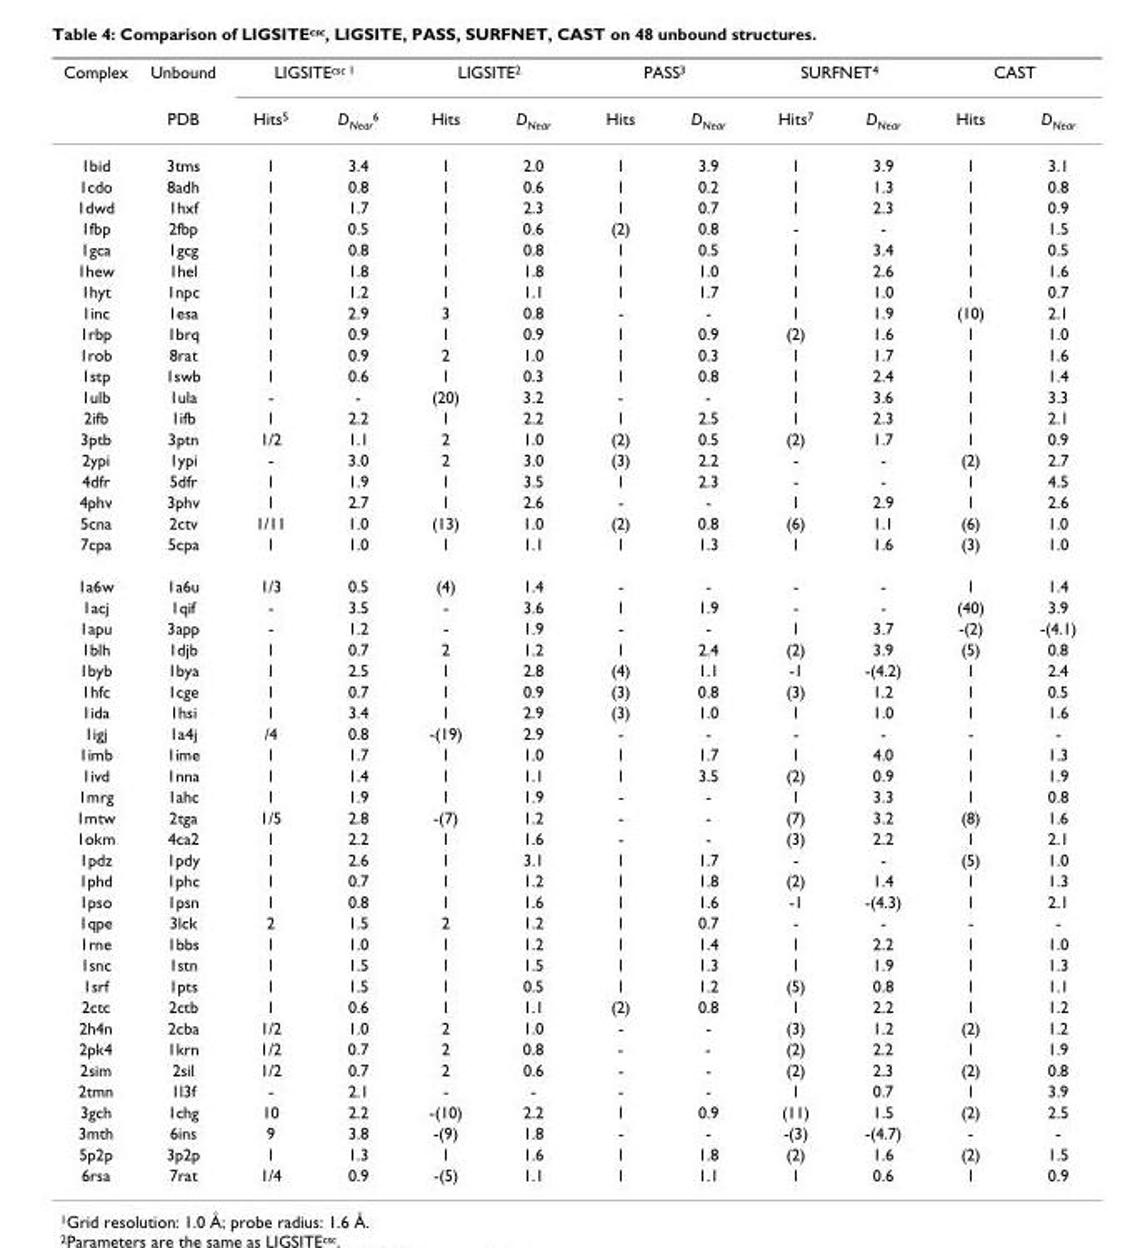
<table><thead><tr><td rowspan="2">Complex</td><td rowspan="2">Unbound PDB</td><td colspan="2">LIGSITEcsc 1</td><td colspan="2">LIGSITE2</td><td colspan="2">PASS3</td><td colspan="2">SURFNET4</td><td colspan="2">CAST</td></tr><tr><td>Hits5</td><td>DNear6</td><td>Hits</td><td>DNear</td><td>Hits</td><td>DNear</td><td>Hits7</td><td>DNear</td><td>Hits</td><td>DNear</td></tr></thead><tbody><tr><td>1bid</td><td>3tms</td><td>1</td><td>3.4</td><td>1</td><td>2.0</td><td>1</td><td>3.9</td><td>1</td><td>3.9</td><td>1</td><td>3.1</td></tr><tr><td>1cdo</td><td>8adh</td><td>1</td><td>0.8</td><td>1</td><td>0.6</td><td>1</td><td>0.2</td><td>1</td><td>1.3</td><td>1</td><td>0.8</td></tr><tr><td>1dwd</td><td>1hxf</td><td>1</td><td>1.7</td><td>1</td><td>2.3</td><td>1</td><td>0.7</td><td>1</td><td>2.3</td><td>1</td><td>0.9</td></tr><tr><td>1fbp</td><td>2fbp</td><td>1</td><td>0.5</td><td>1</td><td>0.6</td><td>(2)</td><td>0.8</td><td>-</td><td>-</td><td>1</td><td>1.5</td></tr><tr><td>1gca</td><td>1gcg</td><td>1</td><td>0.8</td><td>1</td><td>0.8</td><td>1</td><td>0.5</td><td>1</td><td>3.4</td><td>1</td><td>0.5</td></tr><tr><td>1hew</td><td>1hel</td><td>1</td><td>1.8</td><td>1</td><td>1.8</td><td>1</td><td>1.0</td><td>1</td><td>2.6</td><td>1</td><td>1.6</td></tr><tr><td>1hyt</td><td>1npc</td><td>1</td><td>1.2</td><td>1</td><td>1.1</td><td>1</td><td>1.7</td><td>1</td><td>1.0</td><td>1</td><td>0.7</td></tr><tr><td>1inc</td><td>1esa</td><td>1</td><td>2.9</td><td>3</td><td>0.8</td><td>-</td><td>-</td><td>1</td><td>1.9</td><td>(10)</td><td>2.1</td></tr><tr><td>1rbp</td><td>1brq</td><td>1</td><td>0.9</td><td>1</td><td>0.9</td><td>1</td><td>0.9</td><td>(2)</td><td>1.6</td><td>1</td><td>1.0</td></tr><tr><td>1rob</td><td>8rat</td><td>1</td><td>0.9</td><td>2</td><td>1.0</td><td>1</td><td>0.3</td><td>1</td><td>1.7</td><td>1</td><td>1.6</td></tr><tr><td>1stp</td><td>1swb</td><td>1</td><td>0.6</td><td>1</td><td>0.3</td><td>1</td><td>0.8</td><td>1</td><td>2.4</td><td>1</td><td>1.4</td></tr><tr><td>1ulb</td><td>1ula</td><td>-</td><td>-</td><td>(20)</td><td>3.2</td><td>-</td><td>-</td><td>1</td><td>3.6</td><td>1</td><td>3.3</td></tr><tr><td>2ifb</td><td>1ifb</td><td>1</td><td>2.2</td><td>1</td><td>2.2</td><td>1</td><td>2.5</td><td>1</td><td>2.3</td><td>1</td><td>2.1</td></tr><tr><td>3ptb</td><td>3ptn</td><td>1/2</td><td>1.1</td><td>2</td><td>1.0</td><td>(2)</td><td>0.5</td><td>(2)</td><td>1.7</td><td>1</td><td>0.9</td></tr><tr><td>2ypi</td><td>1ypi</td><td>-</td><td>3.0</td><td>2</td><td>3.0</td><td>(3)</td><td>2.2</td><td>-</td><td>-</td><td>(2)</td><td>2.7</td></tr><tr><td>4dfr</td><td>5dfr</td><td>1</td><td>1.9</td><td>1</td><td>3.5</td><td>1</td><td>2.3</td><td>-</td><td>-</td><td>1</td><td>4.5</td></tr><tr><td>4phv</td><td>3phv</td><td>1</td><td>2.7</td><td>1</td><td>2.6</td><td>-</td><td>-</td><td>1</td><td>2.9</td><td>1</td><td>2.6</td></tr><tr><td>5cna</td><td>2ctv</td><td>1/11</td><td>1.0</td><td>(13)</td><td>1.0</td><td>(2)</td><td>0.8</td><td>(6)</td><td>1.1</td><td>(6)</td><td>1.0</td></tr><tr><td>7cpa</td><td>5cpa</td><td>1</td><td>1.0</td><td>1</td><td>1.1</td><td>1</td><td>1.3</td><td>1</td><td>1.6</td><td>(3)</td><td>1.0</td></tr><tr><td>1a6w</td><td>1a6u</td><td>1/3</td><td>0.5</td><td>(4)</td><td>1.4</td><td>-</td><td>-</td><td>-</td><td>-</td><td>1</td><td>1.4</td></tr><tr><td>1acj</td><td>1qif</td><td>-</td><td>3.5</td><td>-</td><td>3.6</td><td>1</td><td>1.9</td><td>-</td><td>-</td><td>(40)</td><td>3.9</td></tr><tr><td>1apu</td><td>3app</td><td>-</td><td>1.2</td><td>-</td><td>1.9</td><td>-</td><td>-</td><td>1</td><td>3.7</td><td>-(2)</td><td>-(4.1)</td></tr><tr><td>1blh</td><td>1djb</td><td>1</td><td>0.7</td><td>2</td><td>1.2</td><td>1</td><td>2.4</td><td>(2)</td><td>3.9</td><td>(5)</td><td>0.8</td></tr><tr><td>1byb</td><td>1bya</td><td>1</td><td>2.5</td><td>1</td><td>2.8</td><td>(4)</td><td>1.1</td><td>-1</td><td>-(4.2)</td><td>1</td><td>2.4</td></tr><tr><td>1hfc</td><td>1cge</td><td>1</td><td>0.7</td><td>1</td><td>0.9</td><td>(3)</td><td>0.8</td><td>(3)</td><td>1.2</td><td>1</td><td>0.5</td></tr><tr><td>1ida</td><td>1hsi</td><td>1</td><td>3.4</td><td>1</td><td>2.9</td><td>(3)</td><td>1.0</td><td>1</td><td>1.0</td><td>1</td><td>1.6</td></tr><tr><td>1igj</td><td>1a4j</td><td>/4</td><td>0.8</td><td>-(19)</td><td>2.9</td><td>-</td><td>-</td><td>-</td><td>-</td><td>-</td><td>-</td></tr><tr><td>1imb</td><td>1ime</td><td>1</td><td>1.7</td><td>1</td><td>1.0</td><td>1</td><td>1.7</td><td>1</td><td>4.0</td><td>1</td><td>1.3</td></tr><tr><td>1ivd</td><td>1nna</td><td>1</td><td>1.4</td><td>1</td><td>1.1</td><td>1</td><td>3.5</td><td>(2)</td><td>0.9</td><td>1</td><td>1.9</td></tr><tr><td>1mrg</td><td>1ahc</td><td>1</td><td>1.9</td><td>1</td><td>1.9</td><td>-</td><td>-</td><td>1</td><td>3.3</td><td>1</td><td>0.8</td></tr><tr><td>1mtw</td><td>2tga</td><td>1/5</td><td>2.8</td><td>-(7)</td><td>1.2</td><td>-</td><td>-</td><td>(7)</td><td>3.2</td><td>(8)</td><td>1.6</td></tr><tr><td>1okm</td><td>4ca2</td><td>1</td><td>2.2</td><td>1</td><td>1.6</td><td>-</td><td>-</td><td>(3)</td><td>2.2</td><td>1</td><td>2.1</td></tr><tr><td>1pdz</td><td>1pdy</td><td>1</td><td>2.6</td><td>1</td><td>3.1</td><td>1</td><td>1.7</td><td>-</td><td>-</td><td>(5)</td><td>1.0</td></tr><tr><td>1phd</td><td>1phc</td><td>1</td><td>0.7</td><td>1</td><td>1.2</td><td>1</td><td>1.8</td><td>(2)</td><td>1.4</td><td>1</td><td>1.3</td></tr><tr><td>1pso</td><td>1psn</td><td>1</td><td>0.8</td><td>1</td><td>1.6</td><td>1</td><td>1.6</td><td>-1</td><td>-(4.3)</td><td>1</td><td>2.1</td></tr><tr><td>1qpe</td><td>3lck</td><td>2</td><td>1.5</td><td>2</td><td>1.2</td><td>1</td><td>0.7</td><td>-</td><td>-</td><td>-</td><td>-</td></tr><tr><td>1rne</td><td>1bbs</td><td>1</td><td>1.0</td><td>1</td><td>1.2</td><td>1</td><td>1.4</td><td>1</td><td>2.2</td><td>1</td><td>1.0</td></tr><tr><td>1snc</td><td>1stn</td><td>1</td><td>1.5</td><td>1</td><td>1.5</td><td>1</td><td>1.3</td><td>1</td><td>1.9</td><td>1</td><td>1.3</td></tr><tr><td>1srf</td><td>1pts</td><td>1</td><td>1.5</td><td>1</td><td>0.5</td><td>1</td><td>1.2</td><td>(5)</td><td>0.8</td><td>1</td><td>1.1</td></tr><tr><td>2ctc</td><td>2ctb</td><td>1</td><td>0.6</td><td>1</td><td>1.1</td><td>(2)</td><td>0.8</td><td>1</td><td>2.2</td><td>1</td><td>1.2</td></tr><tr><td>2h4n</td><td>2cba</td><td>1/2</td><td>1.0</td><td>2</td><td>1.0</td><td>-</td><td>-</td><td>(3)</td><td>1.2</td><td>(2)</td><td>1.2</td></tr><tr><td>2pk4</td><td>1krn</td><td>1/2</td><td>0.7</td><td>2</td><td>0.8</td><td>-</td><td>-</td><td>(2)</td><td>2.2</td><td>1</td><td>1.9</td></tr><tr><td>2sim</td><td>2sil</td><td>1/2</td><td>0.7</td><td>2</td><td>0.6</td><td>-</td><td>-</td><td>(2)</td><td>2.3</td><td>(2)</td><td>0.8</td></tr><tr><td>2tmn</td><td>1l3f</td><td>-</td><td>2.1</td><td>-</td><td>-</td><td>-</td><td>-</td><td>1</td><td>0.7</td><td>1</td><td>3.9</td></tr><tr><td>3gch</td><td>1chg</td><td>10</td><td>2.2</td><td>-(10)</td><td>2.2</td><td>1</td><td>0.9</td><td>(11)</td><td>1.5</td><td>(2)</td><td>2.5</td></tr><tr><td>3mth</td><td>6ins</td><td>9</td><td>3.8</td><td>-(9)</td><td>1.8</td><td>-</td><td>-</td><td>-(3)</td><td>-(4.7)</td><td>-</td><td>-</td></tr><tr><td>5p2p</td><td>3p2p</td><td>1</td><td>1.3</td><td>1</td><td>1.6</td><td>1</td><td>1.8</td><td>(2)</td><td>1.6</td><td>(2)</td><td>1.5</td></tr><tr><td>6rsa</td><td>7rat</td><td>1/4</td><td>0.9</td><td>-(5)</td><td>1.1</td><td>1</td><td>1.1</td><td>1</td><td>0.6</td><td>1</td><td>0.9</td></tr></tbody></table>